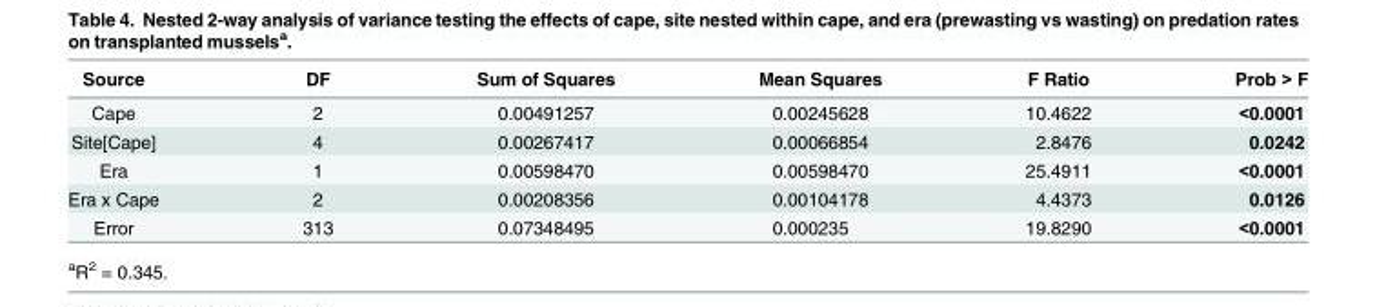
<table><thead><tr><td>Source</td><td>DF</td><td>Sum of Squares</td><td>Mean Squares</td><td>F Ratio</td><td>Prob &gt; F</td></tr></thead><tbody><tr><td>Cape</td><td>2</td><td>0.00491257</td><td>0.00245628</td><td>10.4622</td><td>&lt;0.0001</td></tr><tr><td>Site[Cape]</td><td>4</td><td>0.00267417</td><td>0.00066854</td><td>2.8476</td><td>0.0242</td></tr><tr><td>Era</td><td>1</td><td>0.00598470</td><td>0.00598470</td><td>25.4911</td><td>&lt;0.0001</td></tr><tr><td>Era x Cape</td><td>2</td><td>0.00208356</td><td>0.00104178</td><td>4.4373</td><td>0.0126</td></tr><tr><td>Error</td><td>313</td><td>0.07348495</td><td>0.000235</td><td>19.8290</td><td>&lt;0.0001</td></tr></tbody></table>